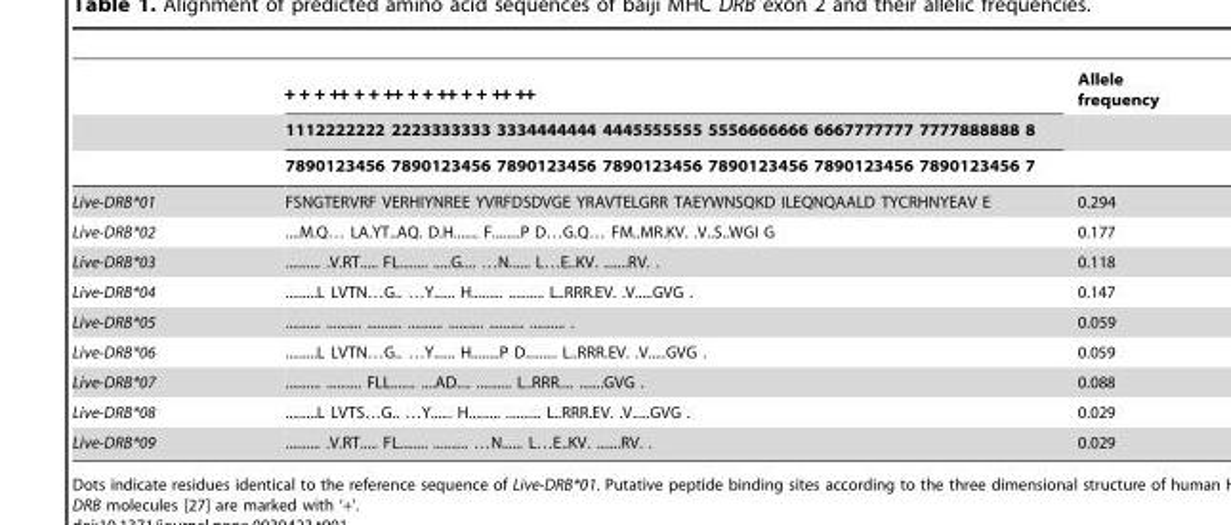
<table><thead><tr><td rowspan="3"></td><td rowspan="3">+ + + ++ + + ++ + + ++ + + ++ ++ 1112222222 2223333333 3334444444 4445555555 5556666666 6667777777 7777888888 8 7890123456 7890123456 7890123456 7890123456 7890123456 7890123456 7890123456 7</td><td rowspan="3">Allele frequency</td></tr><tr></tr><tr></tr></thead><tbody><tr><td>Live-DRB*01</td><td>FSNGTERVRF VERHIYNREE YVRFDSDVGE YRAVTELGRR TAEYWNSQKD ILEQNQAALD TYCRHNYEAV E</td><td>0.294</td></tr><tr><td>Live-DRB*02</td><td>....M.Q… LA.YT..AQ. D.H....... F........P D…G.Q… FM..MR.KV. .V..S..WGI G</td><td>0.177</td></tr><tr><td>Live-DRB*03</td><td>.......... .V.RT..... FL........ .....G.... …N...... L…E..KV. .......RV. .</td><td>0.118</td></tr><tr><td>Live-DRB*04</td><td>.........L LVTN…G.. …Y...... H......... .......... L..RRR.EV. .V.....GVG .</td><td>0.147</td></tr><tr><td>Live-DRB*05</td><td>.......... .......... .......... .......... .......... .......... .......... .</td><td>0.059</td></tr><tr><td>Live-DRB*06</td><td>.........L LVTN…G.. …Y...... H........P D......... L..RRR.EV. .V.....GVG .</td><td>0.059</td></tr><tr><td>Live-DRB*07</td><td>.......... .......... FLL....... ....AD.... .......... L..RRR.... .......GVG .</td><td>0.088</td></tr><tr><td>Live-DRB*08</td><td>.........L LVTS…G.. …Y...... H......... .......... L..RRR.EV. .V.....GVG .</td><td>0.029</td></tr><tr><td>Live-DRB*09</td><td>.......... .V.RT..... FL........ .......... …N...... L…E..KV. .......RV. .</td><td>0.029</td></tr></tbody></table>